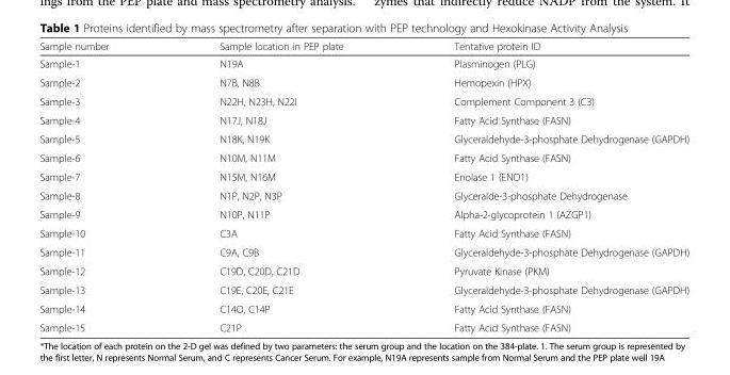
<table><thead><tr><td>Sample number</td><td>Sample location in PEP plate</td><td>Tentative protein ID</td></tr></thead><tbody><tr><td>Sample-1</td><td>N19A</td><td>Plasminogen (PLG)</td></tr><tr><td>Sample-2</td><td>N7B, N8B</td><td>Hemopexin (HPX)</td></tr><tr><td>Sample-3</td><td>N22H, N23H, N22I</td><td>Complement Component 3 (C3)</td></tr><tr><td>Sample-4</td><td>N17J, N18J</td><td>Fatty Acid Synthase (FASN)</td></tr><tr><td>Sample-5</td><td>N18K, N19K</td><td>Glyceraldehyde-3-phosphate Dehydrogenase (GAPDH)</td></tr><tr><td>Sample-6</td><td>N10M, N11M</td><td>Fatty Acid Synthase (FASN)</td></tr><tr><td>Sample-7</td><td>N15M, N16M</td><td>Enolase 1 (ENO1)</td></tr><tr><td>Sample-8</td><td>N1P, N2P, N3P</td><td>Glyceralde-3-phosphate Dehydrogenase</td></tr><tr><td>Sample-9</td><td>N10P, N11P</td><td>Alpha-2-glycoprotein 1 (AZGP1)</td></tr><tr><td>Sample-10</td><td>C3A</td><td>Fatty Acid Synthase (FASN)</td></tr><tr><td>Sample-11</td><td>C9A, C9B</td><td>Glyceraldehyde-3-phosphate Dehydrogenase (GAPDH)</td></tr><tr><td>Sample-12</td><td>C19D, C20D, C21D</td><td>Pyruvate Kinase (PKM)</td></tr><tr><td>Sample-13</td><td>C19E, C20E, C21E</td><td>Glyceraldehyde-3-phosphate Dehydrogenase (GAPDH)</td></tr><tr><td>Sample-14</td><td>C14O, C14P</td><td>Fatty Acid Synthase (FASN)</td></tr><tr><td>Sample-15</td><td>C21P</td><td>Fatty Acid Synthase (FASN)</td></tr></tbody></table>